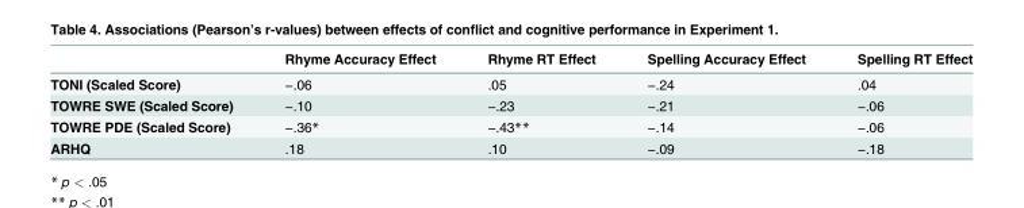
<table><thead><tr><td></td><td>Rhyme Accuracy Effect</td><td>Rhyme RT Effect</td><td>Spelling Accuracy Effect</td><td>Spelling RT Effect</td></tr></thead><tbody><tr><td>TONI (Scaled Score)</td><td>−.06</td><td>.05</td><td>−.24</td><td>.04</td></tr><tr><td>TOWRE SWE (Scaled Score)</td><td>−.10</td><td>−.23</td><td>−.21</td><td>−.06</td></tr><tr><td>TOWRE PDE (Scaled Score)</td><td>−.36*</td><td>−.43**</td><td>−.14</td><td>−.06</td></tr><tr><td>ARHQ</td><td>.18</td><td>.10</td><td>−.09</td><td>−.18</td></tr></tbody></table>